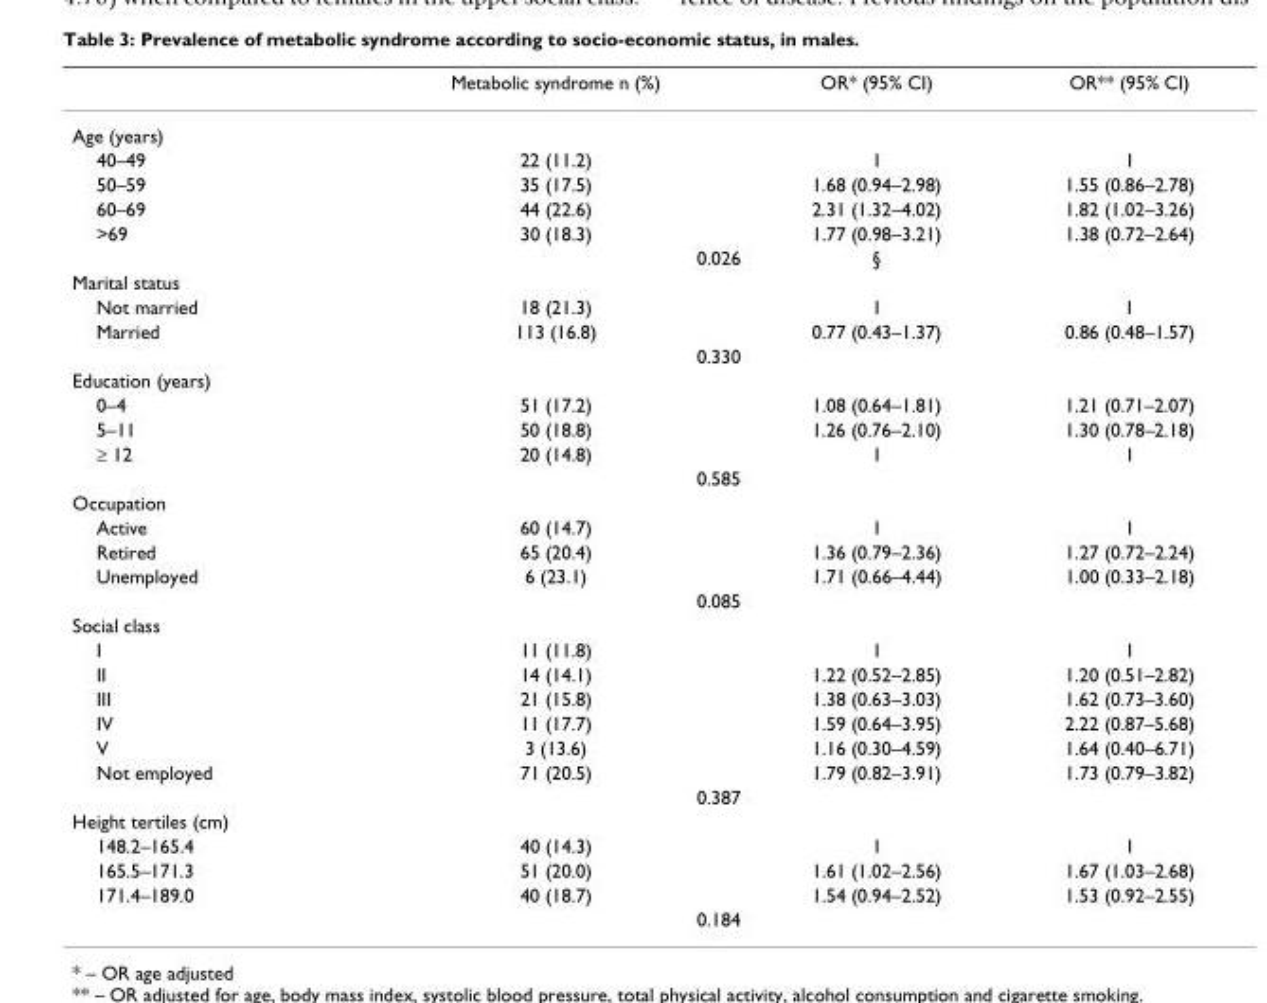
<table><thead><tr><td></td><td>Metabolic syndrome n (%)</td><td>OR* (95% CI)</td><td>OR** (95% CI)</td></tr></thead><tbody><tr><td colspan="4">Age (years)</td></tr><tr><td>40–49</td><td>22 (11.2)</td><td>1</td><td>1</td></tr><tr><td>50–59</td><td>35 (17.5)</td><td>1.68 (0.94–2.98)</td><td>1.55 (0.86–2.78)</td></tr><tr><td>60–69</td><td>44 (22.6)</td><td>2.31 (1.32–4.02)</td><td>1.82 (1.02–3.26)</td></tr><tr><td rowspan="2">&gt;69</td><td>30 (18.3)</td><td>1.77 (0.98–3.21)</td><td>1.38 (0.72–2.64)</td></tr><tr><td>0.026</td><td>§</td><td></td></tr><tr><td colspan="4">Marital status</td></tr><tr><td>Not married</td><td>18 (21.3)</td><td>1</td><td>1</td></tr><tr><td rowspan="2">Married</td><td>113 (16.8)</td><td>0.77 (0.43–1.37)</td><td>0.86 (0.48–1.57)</td></tr><tr><td>0.330</td><td></td><td></td></tr><tr><td colspan="4">Education (years)</td></tr><tr><td>0–4</td><td>51 (17.2)</td><td>1.08 (0.64–1.81)</td><td>1.21 (0.71–2.07)</td></tr><tr><td>5–11</td><td>50 (18.8)</td><td>1.26 (0.76–2.10)</td><td>1.30 (0.78–2.18)</td></tr><tr><td rowspan="2">≥ 12</td><td>20 (14.8)</td><td>1</td><td>1</td></tr><tr><td>0.585</td><td></td><td></td></tr><tr><td colspan="4">Occupation</td></tr><tr><td>Active</td><td>60 (14.7)</td><td>1</td><td>1</td></tr><tr><td>Retired</td><td>65 (20.4)</td><td>1.36 (0.79–2.36)</td><td>1.27 (0.72–2.24)</td></tr><tr><td rowspan="2">Unemployed</td><td>6 (23.1)</td><td>1.71 (0.66–4.44)</td><td>1.00 (0.33–2.18)</td></tr><tr><td>0.085</td><td></td><td></td></tr><tr><td colspan="4">Social class</td></tr><tr><td>I</td><td>11 (11.8)</td><td>1</td><td>1</td></tr><tr><td>II</td><td>14 (14.1)</td><td>1.22 (0.52–2.85)</td><td>1.20 (0.51–2.82)</td></tr><tr><td>III</td><td>21 (15.8)</td><td>1.38 (0.63–3.03)</td><td>1.62 (0.73–3.60)</td></tr><tr><td>IV</td><td>11 (17.7)</td><td>1.59 (0.64–3.95)</td><td>2.22 (0.87–5.68)</td></tr><tr><td>V</td><td>3 (13.6)</td><td>1.16 (0.30–4.59)</td><td>1.64 (0.40–6.71)</td></tr><tr><td rowspan="2">Not employed</td><td>71 (20.5)</td><td>1.79 (0.82–3.91)</td><td>1.73 (0.79–3.82)</td></tr><tr><td>0.387</td><td></td><td></td></tr><tr><td colspan="4">Height tertiles (cm)</td></tr><tr><td>148.2–165.4</td><td>40 (14.3)</td><td>1</td><td>1</td></tr><tr><td>165.5–171.3</td><td>51 (20.0)</td><td>1.61 (1.02–2.56)</td><td>1.67 (1.03–2.68)</td></tr><tr><td rowspan="2">171.4–189.0</td><td>40 (18.7)</td><td>1.54 (0.94–2.52)</td><td>1.53 (0.92–2.55)</td></tr><tr><td>0.184</td><td></td><td></td></tr></tbody></table>